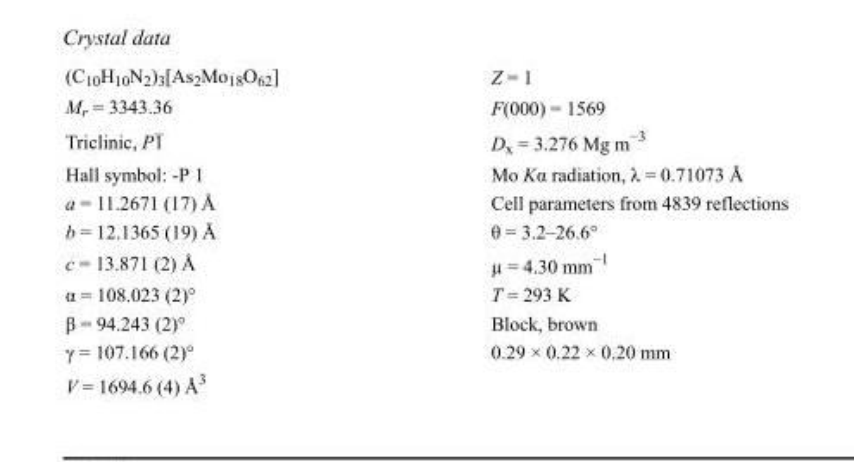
<table><tbody><tr><td>(C<sub>10</sub>H<sub>10</sub>N<sub>2</sub>)<sub>3</sub>[As<sub>2</sub>Mo<sub>18</sub>O<sub>62</sub>]</td><td>Z = 1</td></tr><tr><td>M<sub>r</sub> = 3343.36</td><td>F(000) = 1569</td></tr><tr><td>Triclinic, P1</td><td>D<sub>x</sub> = 3.276 Mg m<sup>−3</sup></td></tr><tr><td>Hall symbol: -P 1</td><td>Mo Kα radiation, λ = 0.71073 Å</td></tr><tr><td>a = 11.2671 (17) Å</td><td>Cell parameters from 4839 reflections</td></tr><tr><td>b = 12.1365 (19) Å</td><td>θ = 3.2–26.6°</td></tr><tr><td>c = 13.871 (2) Å</td><td>µ = 4.30 mm<sup>−1</sup></td></tr><tr><td>α = 108.023 (2)°</td><td>T = 293 K</td></tr><tr><td>β = 94.243 (2)°</td><td>Block, brown</td></tr><tr><td>γ = 107.166 (2)°</td><td>0.29 × 0.22 × 0.20 mm</td></tr><tr><td>V = 1694.6 (4) Å<sup>3</sup></td><td></td></tr></tbody></table>